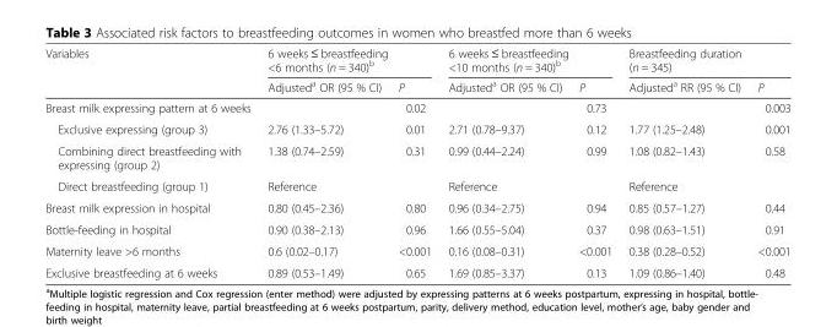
<table><thead><tr><td rowspan="2">Variables</td><td colspan="2">6 weeks ≤ breastfeeding &lt;6 months (n = 340)<sup>b</sup></td><td colspan="2">6 weeks ≤ breastfeeding &lt;10 months (n = 340)<sup>b</sup></td><td colspan="2">Breastfeeding duration (n = 345)</td></tr><tr><td>Adjusted<sup>a</sup> OR (95 % CI)</td><td>P</td><td>Adjusted<sup>a</sup> OR (95 % CI)</td><td>P</td><td>Adjusted<sup>a</sup> RR (95 % CI)</td><td>P</td></tr></thead><tbody><tr><td>Breast milk expressing pattern at 6 weeks</td><td></td><td>0.02</td><td></td><td>0.73</td><td></td><td>0.003</td></tr><tr><td>Exclusive expressing (group 3)</td><td>2.76 (1.33–5.72)</td><td>0.01</td><td>2.71 (0.78–9.37)</td><td>0.12</td><td>1.77 (1.25–2.48)</td><td>0.001</td></tr><tr><td>Combining direct breastfeeding with expressing (group 2)</td><td>1.38 (0.74–2.59)</td><td>0.31</td><td>0.99 (0.44–2.24)</td><td>0.99</td><td>1.08 (0.82–1.43)</td><td>0.58</td></tr><tr><td>Direct breastfeeding (group 1)</td><td>Reference</td><td></td><td>Reference</td><td></td><td>Reference</td><td></td></tr><tr><td>Breast milk expression in hospital</td><td>0.80 (0.45–2.36)</td><td>0.80</td><td>0.96 (0.34–2.75)</td><td>0.94</td><td>0.85 (0.57–1.27)</td><td>0.44</td></tr><tr><td>Bottle-feeding in hospital</td><td>0.90 (0.38–2.13)</td><td>0.96</td><td>1.66 (0.55–5.04)</td><td>0.37</td><td>0.98 (0.63–1.51)</td><td>0.91</td></tr><tr><td>Maternity leave &gt;6 months</td><td>0.6 (0.02–0.17)</td><td>&lt;0.001</td><td>0.16 (0.08–0.31)</td><td>&lt;0.001</td><td>0.38 (0.28–0.52)</td><td>&lt;0.001</td></tr><tr><td>Exclusive breastfeeding at 6 weeks</td><td>0.89 (0.53–1.49)</td><td>0.65</td><td>1.69 (0.85–3.37)</td><td>0.13</td><td>1.09 (0.86–1.40)</td><td>0.48</td></tr></tbody></table>